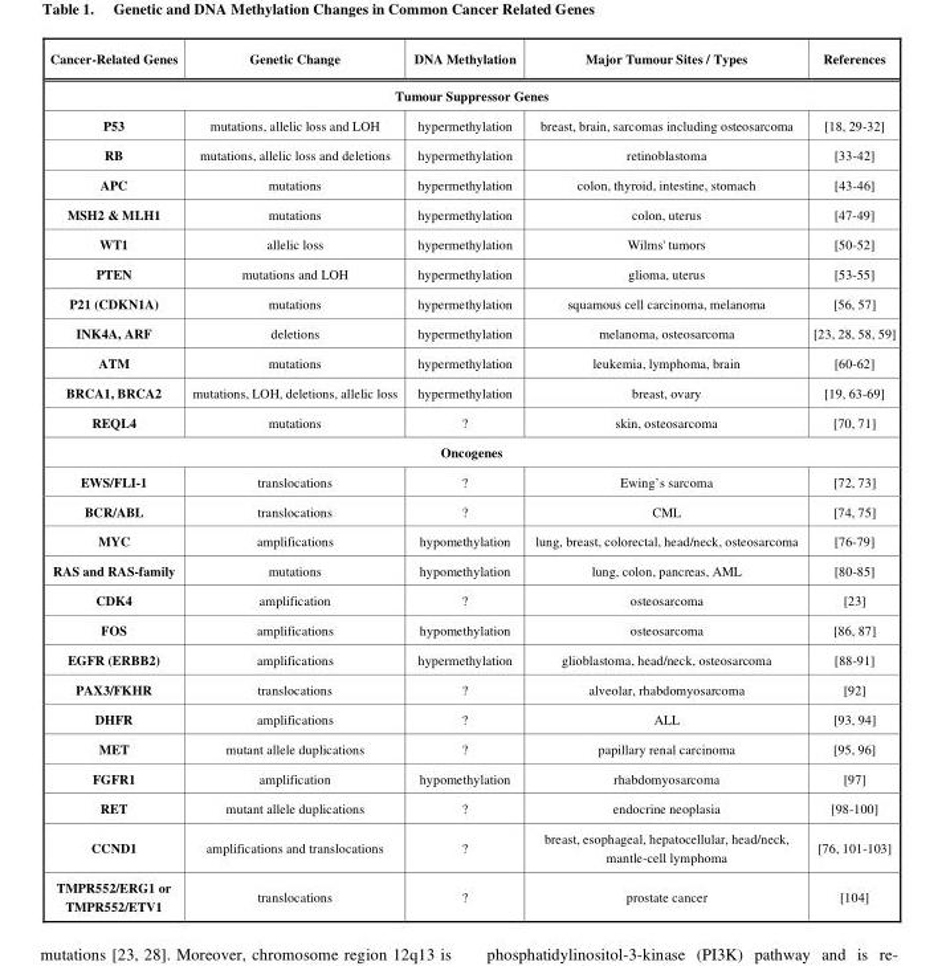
<table><thead><tr><td>Cancer-Related Genes</td><td>Genetic Change</td><td>DNA Methylation</td><td>Major Tumour Sites / Types</td><td>References</td></tr></thead><tbody><tr><td colspan="5">Tumour Suppressor Genes</td></tr><tr><td>P53</td><td>mutations, allelic loss and LOH</td><td>hypermethylation</td><td>breast, brain, sarcomas including osteosarcoma</td><td>[18, 29-32]</td></tr><tr><td>RB</td><td>mutations, allelic loss and deletions</td><td>hypermethylation</td><td>retinoblastoma</td><td>[33-42]</td></tr><tr><td>APC</td><td>mutations</td><td>hypermethylation</td><td>colon, thyroid, intestine, stomach</td><td>[43-46]</td></tr><tr><td>MSH2 &amp; MLH1</td><td>mutations</td><td>hypermethylation</td><td>colon, uterus</td><td>[47-49]</td></tr><tr><td>WT1</td><td>allelic loss</td><td>hypermethylation</td><td>Wilms&#x27; tumors</td><td>[50-52]</td></tr><tr><td>PTEN</td><td>mutations and LOH</td><td>hypermethylation</td><td>glioma, uterus</td><td>[53-55]</td></tr><tr><td>P21 (CDKN1A)</td><td>mutations</td><td>hypermethylation</td><td>squamous cell carcinoma, melanoma</td><td>[56, 57]</td></tr><tr><td>INK4A, ARF</td><td>deletions</td><td>hypermethylation</td><td>melanoma, osteosarcoma</td><td>[23, 28, 58, 59]</td></tr><tr><td>ATM</td><td>mutations</td><td>hypermethylation</td><td>leukemia, lymphoma, brain</td><td>[60-62]</td></tr><tr><td>BRCA1, BRCA2</td><td>mutations, LOH, deletions, allelic loss</td><td>hypermethylation</td><td>breast, ovary</td><td>[19, 63-69]</td></tr><tr><td>REQL4</td><td>mutations</td><td>?</td><td>skin, osteosarcoma</td><td>[70, 71]</td></tr><tr><td colspan="5">Oncogenes</td></tr><tr><td>EWS/FLI-1</td><td>translocations</td><td>?</td><td>Ewing’s sarcoma</td><td>[72, 73]</td></tr><tr><td>BCR/ABL</td><td>translocations</td><td>?</td><td>CML</td><td>[74, 75]</td></tr><tr><td>MYC</td><td>amplifications</td><td>hypomethylation</td><td>lung, breast, colorectal, head/neck, osteosarcoma</td><td>[76-79]</td></tr><tr><td>RAS and RAS-family</td><td>mutations</td><td>hypomethylation</td><td>lung, colon, pancreas, AML</td><td>[80-85]</td></tr><tr><td>CDK4</td><td>amplification</td><td>?</td><td>osteosarcoma</td><td>[23]</td></tr><tr><td>FOS</td><td>amplifications</td><td>hypomethylation</td><td>osteosarcoma</td><td>[86, 87]</td></tr><tr><td>EGFR (ERBB2)</td><td>amplifications</td><td>hypermethylation</td><td>glioblastoma, head/neck, osteosarcoma</td><td>[88-91]</td></tr><tr><td>PAX3/FKHR</td><td>translocations</td><td>?</td><td>alveolar, rhabdomyosarcoma</td><td>[92]</td></tr><tr><td>DHFR</td><td>amplifications</td><td>?</td><td>ALL</td><td>[93, 94]</td></tr><tr><td>MET</td><td>mutant allele duplications</td><td>?</td><td>papillary renal carcinoma</td><td>[95, 96]</td></tr><tr><td>FGFR1</td><td>amplification</td><td>hypomethylation</td><td>rhabdomyosarcoma</td><td>[97]</td></tr><tr><td>RET</td><td>mutant allele duplications</td><td>?</td><td>endocrine neoplasia</td><td>[98-100]</td></tr><tr><td>CCND1</td><td>amplifications and translocations</td><td>?</td><td>breast, esophageal, hepatocellular, head/neck, mantle-cell lymphoma</td><td>[76, 101-103]</td></tr><tr><td>TMPR552/ERG1 or TMPR552/ETV1</td><td>translocations</td><td>?</td><td>prostate cancer</td><td>[104]</td></tr></tbody></table>